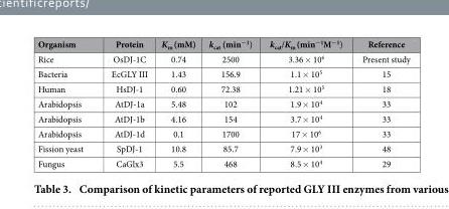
<table><thead><tr><td>Organism</td><td>Protein</td><td>K<sub>m</sub> (mM)</td><td>k<sub>cat</sub> (min<sup>−1</sup>)</td><td>k<sub>cat</sub>/K<sub>m</sub> (min<sup>−1</sup>M<sup>−1</sup>)</td><td>Reference</td></tr></thead><tbody><tr><td>Rice</td><td>OsDJ-1C</td><td>0.74</td><td>2500</td><td>3.36 × 10<sup>6</sup></td><td>Present study</td></tr><tr><td>Bacteria</td><td>EcGLY III</td><td>1.43</td><td>156.9</td><td>1.1 × 10<sup>5</sup></td><td>15</td></tr><tr><td>Human</td><td>HsDJ-1</td><td>0.60</td><td>72.38</td><td>1.21 × 10<sup>5</sup></td><td>18</td></tr><tr><td>Arabidopsis</td><td>AtDJ-1a</td><td>5.48</td><td>102</td><td>1.9 × 10<sup>4</sup></td><td>33</td></tr><tr><td>Arabidopsis</td><td>AtDJ-1b</td><td>4.16</td><td>154</td><td>3.7 × 10<sup>4</sup></td><td>33</td></tr><tr><td>Arabidopsis</td><td>AtDJ-1d</td><td>0.1</td><td>1700</td><td>17 × 10<sup>6</sup></td><td>33</td></tr><tr><td>Fission yeast</td><td>SpDJ-1</td><td>10.8</td><td>85.7</td><td>7.9 × 10<sup>3</sup></td><td>48</td></tr><tr><td>Fungus</td><td>CaGlx3</td><td>5.5</td><td>468</td><td>8.5 × 10<sup>4</sup></td><td>29</td></tr></tbody></table>